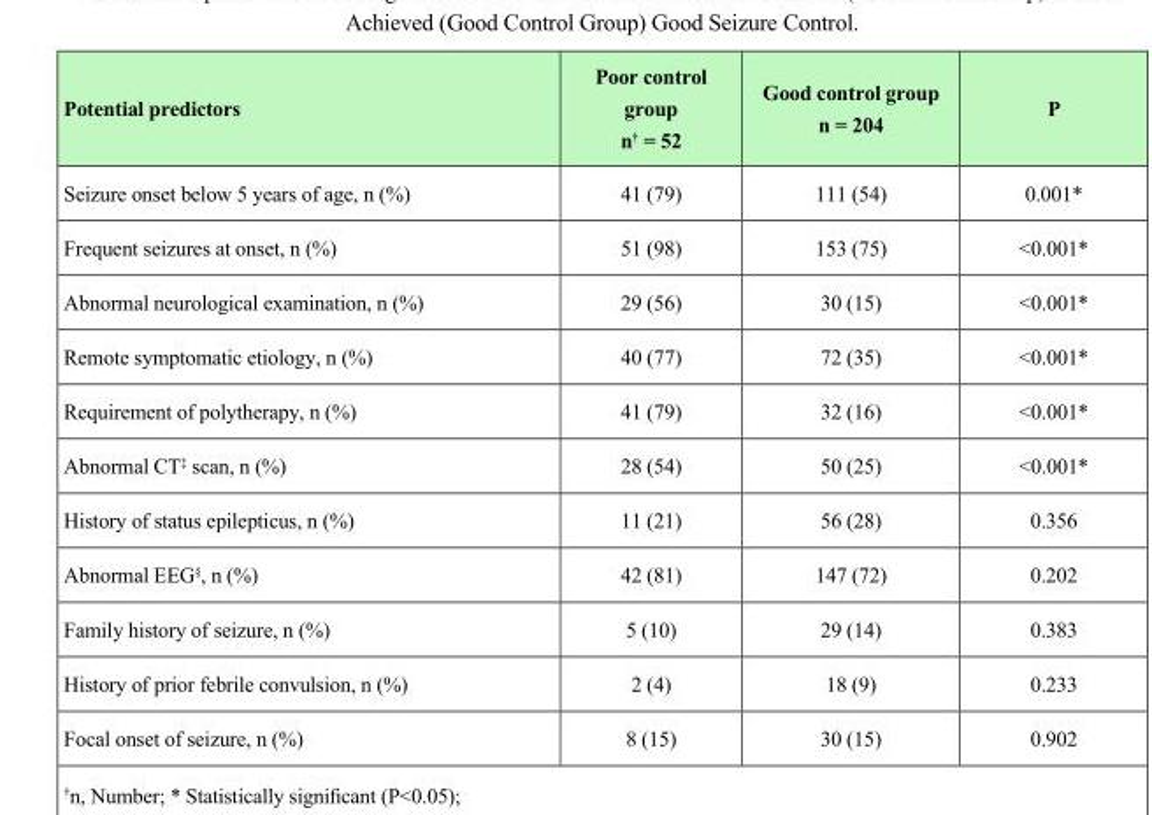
<table><thead><tr><td>Potential predictors</td><td>Poor control group n† = 52</td><td>Good control group n = 204</td><td>P</td></tr></thead><tbody><tr><td>Seizure onset below 5 years of age, n (%)</td><td>41 (79)</td><td>111 (54)</td><td>0.001*</td></tr><tr><td>Frequent seizures at onset, n (%)</td><td>51 (98)</td><td>153 (75)</td><td>&lt;0.001*</td></tr><tr><td>Abnormal neurological examination, n (%)</td><td>29 (56)</td><td>30 (15)</td><td>&lt;0.001*</td></tr><tr><td>Remote symptomatic etiology, n (%)</td><td>40 (77)</td><td>72 (35)</td><td>&lt;0.001*</td></tr><tr><td>Requirement of polytherapy, n (%)</td><td>41 (79)</td><td>32 (16)</td><td>&lt;0.001*</td></tr><tr><td>Abnormal CT‡ scan, n (%)</td><td>28 (54)</td><td>50 (25)</td><td>&lt;0.001*</td></tr><tr><td>History of status epilepticus, n (%)</td><td>11 (21)</td><td>56 (28)</td><td>0.356</td></tr><tr><td>Abnormal EEG§, n (%)</td><td>42 (81)</td><td>147 (72)</td><td>0.202</td></tr><tr><td>Family history of seizure, n (%)</td><td>5 (10)</td><td>29 (14)</td><td>0.383</td></tr><tr><td>History of prior febrile convulsion, n (%)</td><td>2 (4)</td><td>18 (9)</td><td>0.233</td></tr><tr><td>Focal onset of seizure, n (%)</td><td>8 (15)</td><td>30 (15)</td><td>0.902</td></tr></tbody></table>